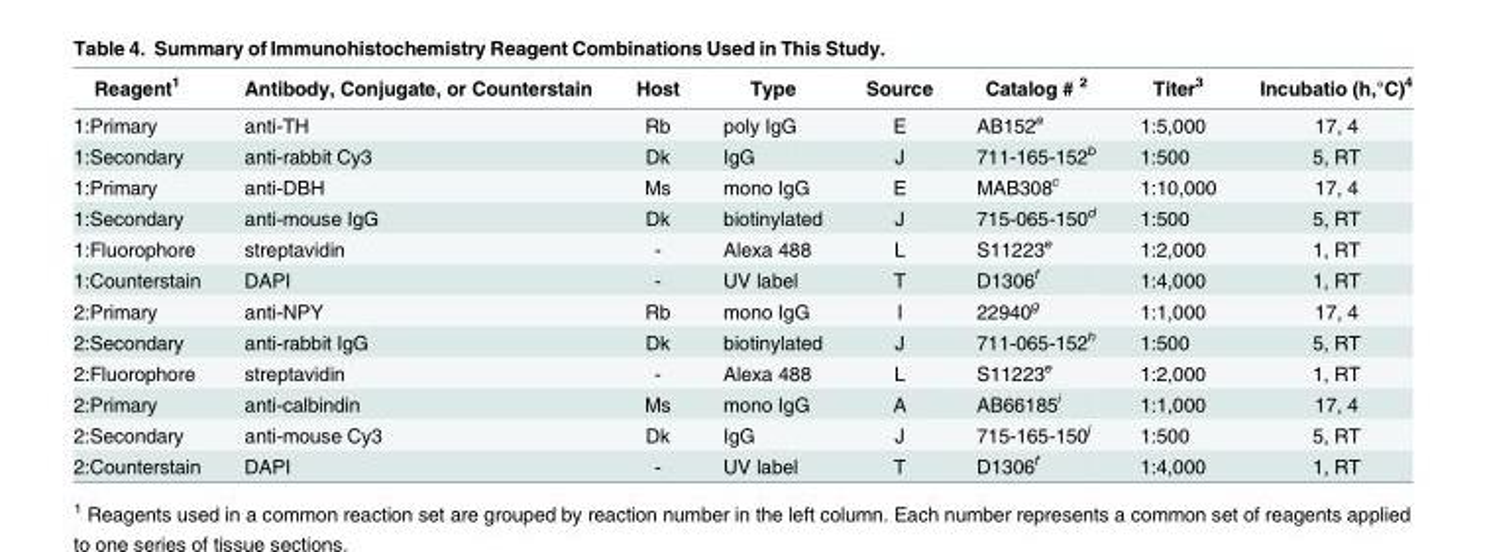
<table><thead><tr><td>Reagent<sup>1</sup></td><td>Antibody, Conjugate, or Counterstain</td><td>Host</td><td>Type</td><td>Source</td><td>Catalog # <sup>2</sup></td><td>Titer<sup>3</sup></td><td>Incubatio (h,°C)<sup>4</sup></td></tr></thead><tbody><tr><td>1:Primary</td><td>anti-TH</td><td>Rb</td><td>poly IgG</td><td>E</td><td>AB152<sup>a</sup></td><td>1:5,000</td><td>17, 4</td></tr><tr><td>1:Secondary</td><td>anti-rabbit Cy3</td><td>Dk</td><td>IgG</td><td>J</td><td>711-165-152<sup>b</sup></td><td>1:500</td><td>5, RT</td></tr><tr><td>1:Primary</td><td>anti-DBH</td><td>Ms</td><td>mono IgG</td><td>E</td><td>MAB308<sup>c</sup></td><td>1:10,000</td><td>17, 4</td></tr><tr><td>1:Secondary</td><td>anti-mouse IgG</td><td>Dk</td><td>biotinylated</td><td>J</td><td>715-065-150<sup>d</sup></td><td>1:500</td><td>5, RT</td></tr><tr><td>1:Fluorophore</td><td>streptavidin</td><td>-</td><td>Alexa 488</td><td>L</td><td>S11223<sup>e</sup></td><td>1:2,000</td><td>1, RT</td></tr><tr><td>1:Counterstain</td><td>DAPI</td><td>-</td><td>UV label</td><td>T</td><td>D1306<sup>f</sup></td><td>1:4,000</td><td>1, RT</td></tr><tr><td>2:Primary</td><td>anti-NPY</td><td>Rb</td><td>mono IgG</td><td>I</td><td>22940<sup>g</sup></td><td>1:1,000</td><td>17, 4</td></tr><tr><td>2:Secondary</td><td>anti-rabbit IgG</td><td>Dk</td><td>biotinylated</td><td>J</td><td>711-065-152<sup>h</sup></td><td>1:500</td><td>5, RT</td></tr><tr><td>2:Fluorophore</td><td>streptavidin</td><td>-</td><td>Alexa 488</td><td>L</td><td>S11223<sup>e</sup></td><td>1:2,000</td><td>1, RT</td></tr><tr><td>2:Primary</td><td>anti-calbindin</td><td>Ms</td><td>mono IgG</td><td>A</td><td>AB66185<sup>i</sup></td><td>1:1,000</td><td>17, 4</td></tr><tr><td>2:Secondary</td><td>anti-mouse Cy3</td><td>Dk</td><td>IgG</td><td>J</td><td>715-165-150<sup>j</sup></td><td>1:500</td><td>5, RT</td></tr><tr><td>2:Counterstain</td><td>DAPI</td><td>-</td><td>UV label</td><td>T</td><td>D1306<sup>f</sup></td><td>1:4,000</td><td>1, RT</td></tr></tbody></table>